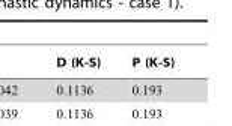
<table><thead><tr><td>D (K-S)</td><td>P (K-S)</td></tr></thead><tbody></tbody></table>